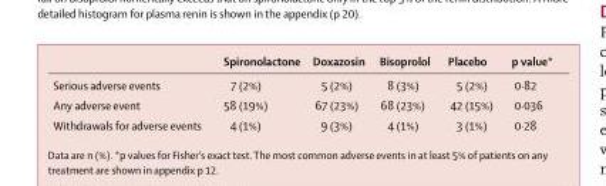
<table><thead><tr><td></td><td>Spironolactone</td><td>Doxazosin</td><td>Bisoprolol</td><td>Placebo</td><td>p value*</td></tr></thead><tbody><tr><td>Serious adverse events</td><td>7 (2%)</td><td>5 (2%)</td><td>8 (3%)</td><td>5 (2%)</td><td>0·82</td></tr><tr><td>Any adverse event</td><td>58 (19%)</td><td>67 (23%)</td><td>68 (23%)</td><td>42 (15%)</td><td>0·036</td></tr><tr><td>Withdrawals for adverse events</td><td>4 (1%)</td><td>9 (3%)</td><td>4 (1%)</td><td>3 (1%)</td><td>0·28</td></tr></tbody></table>